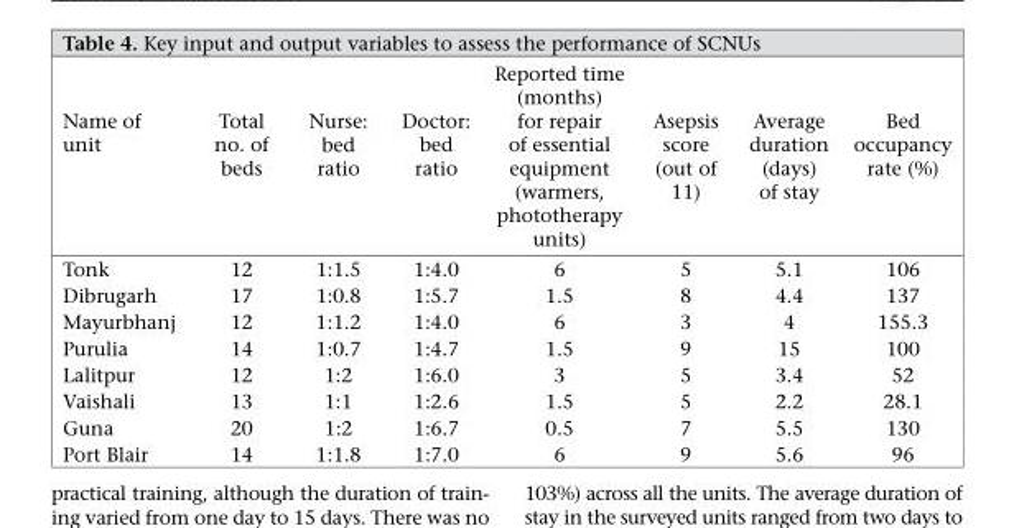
<table><thead><tr><td>Name of unit</td><td>Total no. of beds</td><td>Nurse: bed ratio</td><td>Doctor: bed ratio</td><td>Reported time (months) for repair of essential equipment (warmers, phototherapy units)</td><td>Asepsis score (out of 11)</td><td>Average duration (days) of stay</td><td>Bed occupancy rate (%)</td></tr></thead><tbody><tr><td>Tonk</td><td>12</td><td>1:1.5</td><td>1:4.0</td><td>6</td><td>5</td><td>5.1</td><td>106</td></tr><tr><td>Dibrugarh</td><td>17</td><td>1:0.8</td><td>1:5.7</td><td>1.5</td><td>8</td><td>4.4</td><td>137</td></tr><tr><td>Mayurbhanj</td><td>12</td><td>1:1.2</td><td>1:4.0</td><td>6</td><td>3</td><td>4</td><td>155.3</td></tr><tr><td>Purulia</td><td>14</td><td>1:0.7</td><td>1:4.7</td><td>1.5</td><td>9</td><td>15</td><td>100</td></tr><tr><td>Lalitpur</td><td>12</td><td>1:2</td><td>1:6.0</td><td>3</td><td>5</td><td>3.4</td><td>52</td></tr><tr><td>Vaishali</td><td>13</td><td>1:1</td><td>1:2.6</td><td>1.5</td><td>5</td><td>2.2</td><td>28.1</td></tr><tr><td>Guna</td><td>20</td><td>1:2</td><td>1:6.7</td><td>0.5</td><td>7</td><td>5.5</td><td>130</td></tr><tr><td>Port Blair</td><td>14</td><td>1:1.8</td><td>1:7.0</td><td>6</td><td>9</td><td>5.6</td><td>96</td></tr></tbody></table>